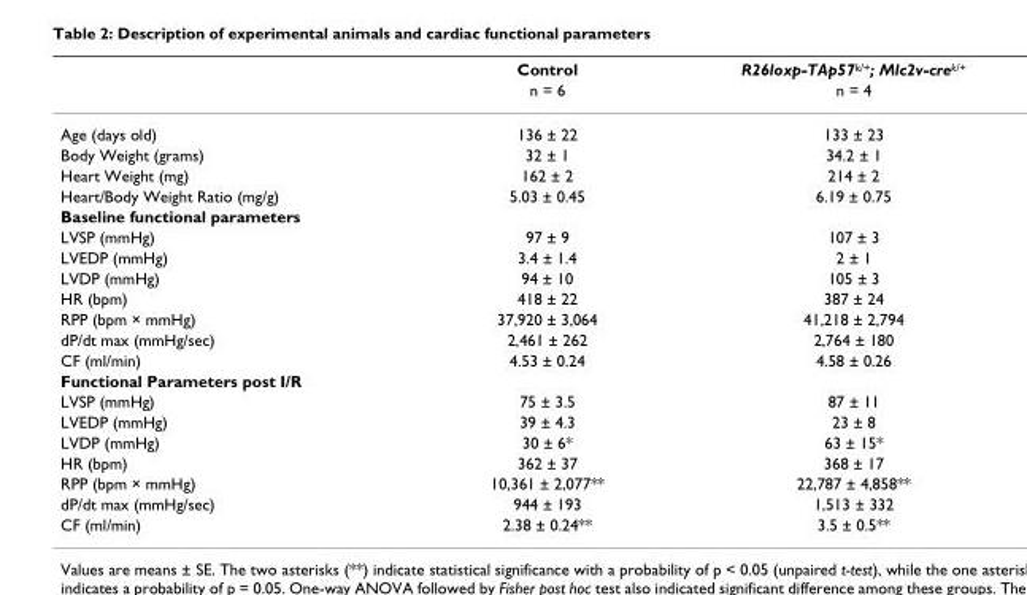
<table><thead><tr><td rowspan="2"></td><td rowspan="2">Control n = 6</td><td rowspan="2">R26loxp-TAp57<sup>k/+</sup>; Mlc2v-cre<sup>k/+</sup> n = 4</td></tr><tr></tr></thead><tbody><tr><td>Age (days old)</td><td>136 ± 22</td><td>133 ± 23</td></tr><tr><td>Body Weight (grams)</td><td>32 ± 1</td><td>34.2 ± 1</td></tr><tr><td>Heart Weight (mg)</td><td>162 ± 2</td><td>214 ± 2</td></tr><tr><td>Heart/Body Weight Ratio (mg/g)</td><td>5.03 ± 0.45</td><td>6.19 ± 0.75</td></tr><tr><td colspan="3">Baseline functional parameters</td></tr><tr><td>LVSP (mmHg)</td><td>97 ± 9</td><td>107 ± 3</td></tr><tr><td>LVEDP (mmHg)</td><td>3.4 ± 1.4</td><td>2 ± 1</td></tr><tr><td>LVDP (mmHg)</td><td>94 ± 10</td><td>105 ± 3</td></tr><tr><td>HR (bpm)</td><td>418 ± 22</td><td>387 ± 24</td></tr><tr><td>RPP (bpm × mmHg)</td><td>37,920 ± 3,064</td><td>41,218 ± 2,794</td></tr><tr><td>dP/dt max (mmHg/sec)</td><td>2,461 ± 262</td><td>2,764 ± 180</td></tr><tr><td>CF (ml/min)</td><td>4.53 ± 0.24</td><td>4.58 ± 0.26</td></tr><tr><td colspan="3">Functional Parameters post I/R</td></tr><tr><td>LVSP (mmHg)</td><td>75 ± 3.5</td><td>87 ± 11</td></tr><tr><td>LVEDP (mmHg)</td><td>39 ± 4.3</td><td>23 ± 8</td></tr><tr><td>LVDP (mmHg)</td><td>30 ± 6*</td><td>63 ± 15*</td></tr><tr><td>HR (bpm)</td><td>362 ± 37</td><td>368 ± 17</td></tr><tr><td>RPP (bpm × mmHg)</td><td>10,361 ± 2,077**</td><td>22,787 ± 4,858**</td></tr><tr><td>dP/dt max (mmHg/sec)</td><td>944 ± 193</td><td>1,513 ± 332</td></tr><tr><td>CF (ml/min)</td><td>2.38 ± 0.24**</td><td>3.5 ± 0.5**</td></tr></tbody></table>